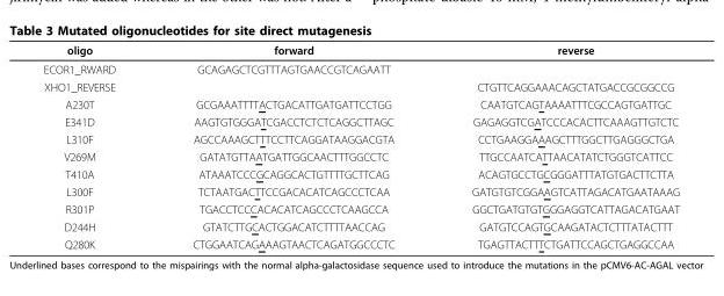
<table><thead><tr><td>oligo</td><td>forward</td><td>reverse</td></tr></thead><tbody><tr><td>ECOR1_RWARD</td><td>GCAGAGCTCGTTTAGTGAACCGTCAGAATT</td><td></td></tr><tr><td>XHO1_REVERSE</td><td></td><td>CTGTTCAGGAAACAGCTATGACCGCGGCCG</td></tr><tr><td>A230T</td><td>GCGAAATTTTACTGACATTGATGATTCCTGG</td><td>CAATGTCAGTAAAATTTCGCCAGTGATTGC</td></tr><tr><td>E341D</td><td>AAGTGTGGGATCGACCTCTCTCAGGCTTAGC</td><td>GAGAGGTCGATCCCACACTTCAAAGTTGTCTC</td></tr><tr><td>L310F</td><td>AGCCAAAGCTTTCCTTCAGGATAAGGACGTA</td><td>CCTGAAGGAAAGCTTTGGCTTGAGGGCTGA</td></tr><tr><td>V269M</td><td>GATATGTTAATGATTGGCAACTTTGGCCTC</td><td>TTGCCAATCATTAACATATCTGGGTCATTCC</td></tr><tr><td>T410A</td><td>ATAAATCCCGCAGGCACTGTTTTGCTTCAG</td><td>ACAGTGCCTGCGGGATTTATGTGACTTCTTA</td></tr><tr><td>L300F</td><td>TCTAATGACTTCCGACACATCAGCCCTCAA</td><td>GATGTGTCGGAAGTCATTAGACATGAATAAAG</td></tr><tr><td>R301P</td><td>TGACCTCCCACACATCAGCCCTCAAGCCA</td><td>GGCTGATGTGTGGGAGGTCATTAGACATGAAT</td></tr><tr><td>D244H</td><td>GTATCTTGCACTGGACATCTTTTAACCAG</td><td>GATGTCCAGTGCAAGATACTCTTTATACTTT</td></tr><tr><td>Q280K</td><td>CTGGAATCAGAAAGTAACTCAGATGGCCCTC</td><td>TGAGTTACTTTCTGATTCCAGCTGAGGCCAA</td></tr></tbody></table>